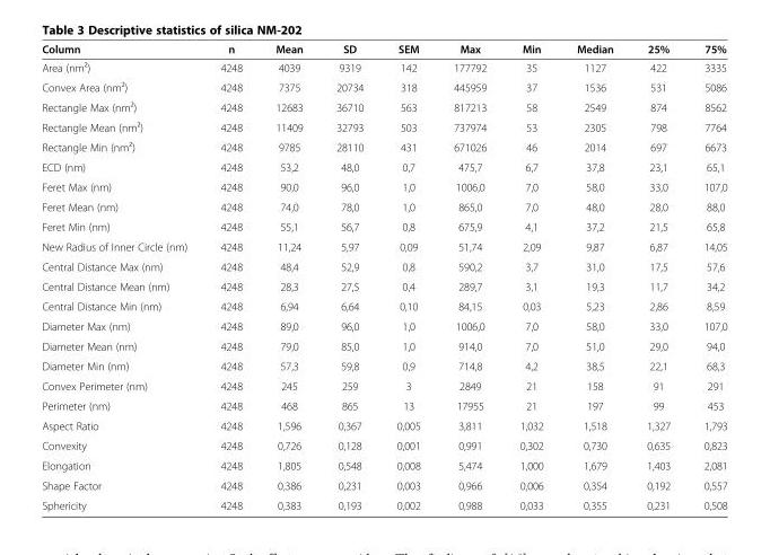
<table><thead><tr><td>Column</td><td>n</td><td>Mean</td><td>SD</td><td>SEM</td><td>Max</td><td>Min</td><td>Median</td><td>25%</td><td>75%</td></tr></thead><tbody><tr><td>Area (nm²)</td><td>4248</td><td>4039</td><td>9319</td><td>142</td><td>177792</td><td>35</td><td>1127</td><td>422</td><td>3335</td></tr><tr><td>Convex Area (nm²)</td><td>4248</td><td>7375</td><td>20734</td><td>318</td><td>445959</td><td>37</td><td>1536</td><td>531</td><td>5086</td></tr><tr><td>Rectangle Max (nm²)</td><td>4248</td><td>12683</td><td>36710</td><td>563</td><td>817213</td><td>58</td><td>2549</td><td>874</td><td>8562</td></tr><tr><td>Rectangle Mean (nm²)</td><td>4248</td><td>11409</td><td>32793</td><td>503</td><td>737974</td><td>53</td><td>2305</td><td>798</td><td>7764</td></tr><tr><td>Rectangle Min (nm²)</td><td>4248</td><td>9785</td><td>28110</td><td>431</td><td>671026</td><td>46</td><td>2014</td><td>697</td><td>6673</td></tr><tr><td>ECD (nm)</td><td>4248</td><td>53,2</td><td>48,0</td><td>0,7</td><td>475,7</td><td>6,7</td><td>37,8</td><td>23,1</td><td>65,1</td></tr><tr><td>Feret Max (nm)</td><td>4248</td><td>90,0</td><td>96,0</td><td>1,0</td><td>1006,0</td><td>7,0</td><td>58,0</td><td>33,0</td><td>107,0</td></tr><tr><td>Feret Mean (nm)</td><td>4248</td><td>74,0</td><td>78,0</td><td>1,0</td><td>865,0</td><td>7,0</td><td>48,0</td><td>28,0</td><td>88,0</td></tr><tr><td>Feret Min (nm)</td><td>4248</td><td>55,1</td><td>56,7</td><td>0,8</td><td>675,9</td><td>4,1</td><td>37,2</td><td>21,5</td><td>65,8</td></tr><tr><td>New Radius of Inner Circle (nm)</td><td>4248</td><td>11,24</td><td>5,97</td><td>0,09</td><td>51,74</td><td>2,09</td><td>9,87</td><td>6,87</td><td>14,05</td></tr><tr><td>Central Distance Max (nm)</td><td>4248</td><td>48,4</td><td>52,9</td><td>0,8</td><td>590,2</td><td>3,7</td><td>31,0</td><td>17,5</td><td>57,6</td></tr><tr><td>Central Distance Mean (nm)</td><td>4248</td><td>28,3</td><td>27,5</td><td>0,4</td><td>289,7</td><td>3,1</td><td>19,3</td><td>11,7</td><td>34,2</td></tr><tr><td>Central Distance Min (nm)</td><td>4248</td><td>6,94</td><td>6,64</td><td>0,10</td><td>84,15</td><td>0,03</td><td>5,23</td><td>2,86</td><td>8,59</td></tr><tr><td>Diameter Max (nm)</td><td>4248</td><td>89,0</td><td>96,0</td><td>1,0</td><td>1006,0</td><td>7,0</td><td>58,0</td><td>33,0</td><td>107,0</td></tr><tr><td>Diameter Mean (nm)</td><td>4248</td><td>79,0</td><td>85,0</td><td>1,0</td><td>914,0</td><td>7,0</td><td>51,0</td><td>29,0</td><td>94,0</td></tr><tr><td>Diameter Min (nm)</td><td>4248</td><td>57,3</td><td>59,8</td><td>0,9</td><td>714,8</td><td>4,2</td><td>38,5</td><td>22,1</td><td>68,3</td></tr><tr><td>Convex Perimeter (nm)</td><td>4248</td><td>245</td><td>259</td><td>3</td><td>2849</td><td>21</td><td>158</td><td>91</td><td>291</td></tr><tr><td>Perimeter (nm)</td><td>4248</td><td>468</td><td>865</td><td>13</td><td>17955</td><td>21</td><td>197</td><td>99</td><td>453</td></tr><tr><td>Aspect Ratio</td><td>4248</td><td>1,596</td><td>0,367</td><td>0,005</td><td>3,811</td><td>1,032</td><td>1,518</td><td>1,327</td><td>1,793</td></tr><tr><td>Convexity</td><td>4248</td><td>0,726</td><td>0,128</td><td>0,001</td><td>0,991</td><td>0,302</td><td>0,730</td><td>0,635</td><td>0,823</td></tr><tr><td>Elongation</td><td>4248</td><td>1,805</td><td>0,548</td><td>0,008</td><td>5,474</td><td>1,000</td><td>1,679</td><td>1,403</td><td>2,081</td></tr><tr><td>Shape Factor</td><td>4248</td><td>0,386</td><td>0,231</td><td>0,003</td><td>0,966</td><td>0,006</td><td>0,354</td><td>0,192</td><td>0,557</td></tr><tr><td>Sphericity</td><td>4248</td><td>0,383</td><td>0,193</td><td>0,002</td><td>0,988</td><td>0,033</td><td>0,355</td><td>0,231</td><td>0,508</td></tr></tbody></table>